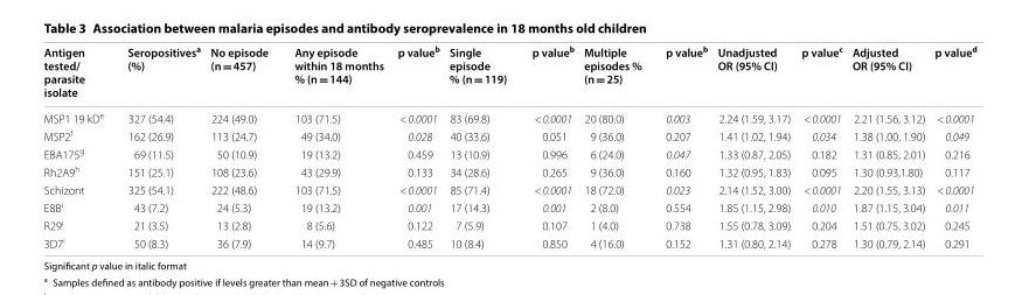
<table><thead><tr><td>Antigen tested/ parasite isolate</td><td>Seropositives<sup>a</sup> (%)</td><td>No episode (n = 457)</td><td>Any episode within 18 months % (n = 144)</td><td>p value<sup>b</sup></td><td>Single episode % (n = 119)</td><td>p value<sup>b</sup></td><td>Multiple episodes % (n = 25)</td><td>p value<sup>b</sup></td><td>Unadjusted OR (95% CI)</td><td>p value<sup>c</sup></td><td>Adjusted OR (95% CI)</td><td>p value<sup>d</sup></td></tr></thead><tbody><tr><td>MSP1 19 kD<sup>e</sup></td><td>327 (54.4)</td><td>224 (49.0)</td><td>103 (71.5)</td><td>&lt; 0.0001</td><td>83 (69.8)</td><td>&lt; 0.0001</td><td>20 (80.0)</td><td>0.003</td><td>2.24 (1.59, 3.17)</td><td>&lt; 0.0001</td><td>2.21 (1.56, 3.12)</td><td>&lt; 0.0001</td></tr><tr><td>MSP2<sup>f</sup></td><td>162 (26.9)</td><td>113 (24.7)</td><td>49 (34.0)</td><td>0.028</td><td>40 (33.6)</td><td>0.051</td><td>9 (36.0)</td><td>0.207</td><td>1.41 (1.02, 1.94)</td><td>0.034</td><td>1.38 (1.00, 1.90)</td><td>0.049</td></tr><tr><td>EBA175<sup>g</sup></td><td>69 (11.5)</td><td>50 (10.9)</td><td>19 (13.2)</td><td>0.459</td><td>13 (10.9)</td><td>0.996</td><td>6 (24.0)</td><td>0.047</td><td>1.33 (0.87, 2.05)</td><td>0.182</td><td>1.31 (0.85, 2.01)</td><td>0.216</td></tr><tr><td>Rh2A9<sup>h</sup></td><td>151 (25.1)</td><td>108 (23.6)</td><td>43 (29.9)</td><td>0.133</td><td>34 (28.6)</td><td>0.265</td><td>9 (36.0)</td><td>0.160</td><td>1.32 (0.95, 1.83)</td><td>0.095</td><td>1.30 (0.93,1.80)</td><td>0.117</td></tr><tr><td>Schizont</td><td>325 (54.1)</td><td>222 (48.6)</td><td>103 (71.5)</td><td>&lt; 0.0001</td><td>85 (71.4)</td><td>&lt; 0.0001</td><td>18 (72.0)</td><td>0.023</td><td>2.14 (1.52, 3.00)</td><td>&lt; 0.0001</td><td>2.20 (1.55, 3.13)</td><td>&lt; 0.0001</td></tr><tr><td>E8B<sup>i</sup></td><td>43 (7.2)</td><td>24 (5.3)</td><td>19 (13.2)</td><td>0.001</td><td>17 (14.3)</td><td>0.001</td><td>2 (8.0)</td><td>0.554</td><td>1.85 (1.15, 2.98)</td><td>0.010</td><td>1.87 (1.15, 3.04)</td><td>0.011</td></tr><tr><td>R29<sup>i</sup></td><td>21 (3.5)</td><td>13 (2.8)</td><td>8 (5.6)</td><td>0.122</td><td>7 (5.9)</td><td>0.107</td><td>1 (4.0)</td><td>0.738</td><td>1.55 (0.78, 3.09)</td><td>0.204</td><td>1.51 (0.75, 3.02)</td><td>0.245</td></tr><tr><td>3D7<sup>i</sup></td><td>50 (8.3)</td><td>36 (7.9)</td><td>14 (9.7)</td><td>0.485</td><td>10 (8.4)</td><td>0.850</td><td>4 (16.0)</td><td>0.152</td><td>1.31 (0.80, 2.14)</td><td>0.278</td><td>1.30 (0.79, 2.14)</td><td>0.291</td></tr></tbody></table>